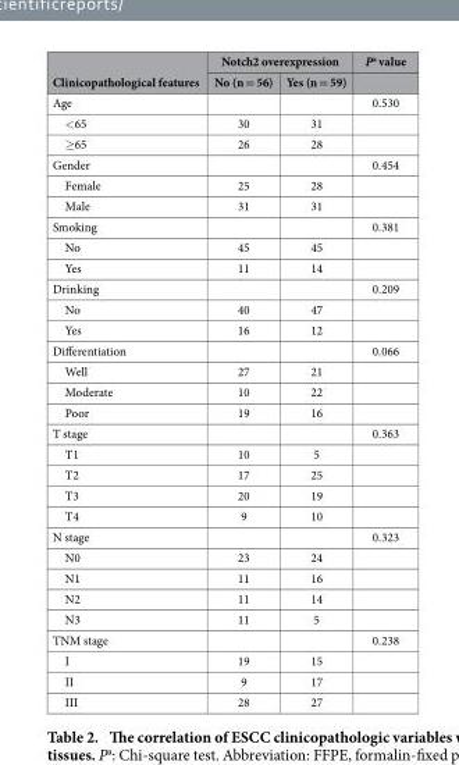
<table><thead><tr><td rowspan="2">Clinicopathological features</td><td colspan="2">Notch2 overexpression</td><td rowspan="2">P<sup>a</sup> value</td></tr><tr><td>No (n = 56)</td><td>Yes (n = 59)</td></tr></thead><tbody><tr><td>Age</td><td></td><td></td><td>0.530</td></tr><tr><td>&lt; 65</td><td>30</td><td>31</td><td></td></tr><tr><td>≥ 65</td><td>26</td><td>28</td><td></td></tr><tr><td>Gender</td><td></td><td></td><td>0.454</td></tr><tr><td>Female</td><td>25</td><td>28</td><td></td></tr><tr><td>Male</td><td>31</td><td>31</td><td></td></tr><tr><td>Smoking</td><td></td><td></td><td>0.381</td></tr><tr><td>No</td><td>45</td><td>45</td><td></td></tr><tr><td>Yes</td><td>11</td><td>14</td><td></td></tr><tr><td>Drinking</td><td></td><td></td><td>0.209</td></tr><tr><td>No</td><td>40</td><td>47</td><td></td></tr><tr><td>Yes</td><td>16</td><td>12</td><td></td></tr><tr><td>Differentiation</td><td></td><td></td><td>0.066</td></tr><tr><td>Well</td><td>27</td><td>21</td><td></td></tr><tr><td>Moderate</td><td>10</td><td>22</td><td></td></tr><tr><td>Poor</td><td>19</td><td>16</td><td></td></tr><tr><td>T stage</td><td></td><td></td><td>0.363</td></tr><tr><td>T1</td><td>10</td><td>5</td><td></td></tr><tr><td>T2</td><td>17</td><td>25</td><td></td></tr><tr><td>T3</td><td>20</td><td>19</td><td></td></tr><tr><td>T4</td><td>9</td><td>10</td><td></td></tr><tr><td>N stage</td><td></td><td></td><td>0.323</td></tr><tr><td>N0</td><td>23</td><td>24</td><td></td></tr><tr><td>N1</td><td>11</td><td>16</td><td></td></tr><tr><td>N2</td><td>11</td><td>14</td><td></td></tr><tr><td>N3</td><td>11</td><td>5</td><td></td></tr><tr><td>TNM stage</td><td></td><td></td><td>0.238</td></tr><tr><td>I</td><td>19</td><td>15</td><td></td></tr><tr><td>II</td><td>9</td><td>17</td><td></td></tr><tr><td>III</td><td>28</td><td>27</td><td></td></tr></tbody></table>